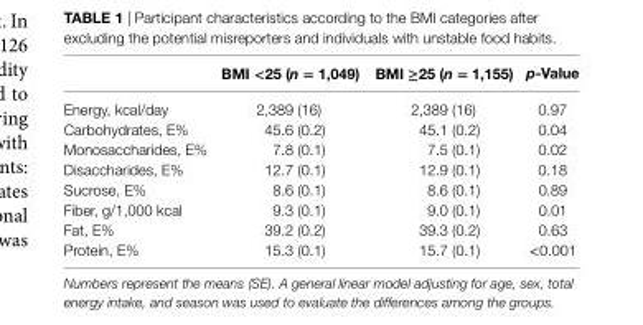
<table><thead><tr><td></td><td>BMi &lt;25 (n = 1,049)</td><td>BMi ≥25 (n = 1,155)</td><td>p-Value</td></tr></thead><tbody><tr><td>Energy, kcal/day</td><td>2,389 (16)</td><td>2,389 (16)</td><td>0.97</td></tr><tr><td>Carbohydrates, E%</td><td>45.6 (0.2)</td><td>45.1 (0.2)</td><td>0.04</td></tr><tr><td>Monosaccharides, E%</td><td>7.8 (0.1)</td><td>7.5 (0.1)</td><td>0.02</td></tr><tr><td>Disaccharides, E%</td><td>12.7 (0.1)</td><td>12.9 (0.1)</td><td>0.18</td></tr><tr><td>Sucrose, E%</td><td>8.6 (0.1)</td><td>8.6 (0.1)</td><td>0.89</td></tr><tr><td>Fiber, g/1,000 kcal</td><td>9.3 (0.1)</td><td>9.0 (0.1)</td><td>0.01</td></tr><tr><td>Fat, E%</td><td>39.2 (0.2)</td><td>39.3 (0.2)</td><td>0.63</td></tr><tr><td>Protein, E%</td><td>15.3 (0.1)</td><td>15.7 (0.1)</td><td>&lt;0.001</td></tr></tbody></table>